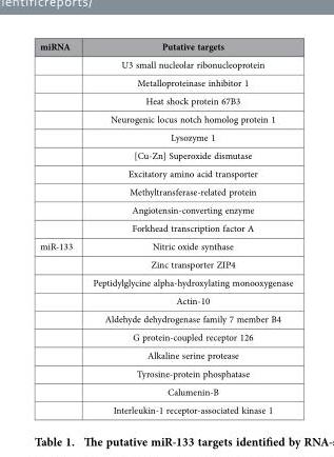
<table><thead><tr><td>miRNA</td><td>Putative targets</td></tr></thead><tbody><tr><td></td><td>U3 small nucleolar ribonucleoprotein</td></tr><tr><td></td><td>Metalloproteinase inhibitor 1</td></tr><tr><td></td><td>Heat shock protein 67B3</td></tr><tr><td></td><td>Neurogenic locus notch homolog protein 1</td></tr><tr><td></td><td>Lysozyme 1</td></tr><tr><td></td><td>[Cu-Zn] Superoxide dismutase</td></tr><tr><td></td><td>Excitatory amino acid transporter</td></tr><tr><td></td><td>Methyltransferase-related protein</td></tr><tr><td></td><td>Angiotensin-converting enzyme</td></tr><tr><td></td><td>Forkhead transcription factor A</td></tr><tr><td rowspan="10">miR-133</td><td>Nitric oxide synthase</td></tr><tr><td>Zinc transporter ZIP4</td></tr><tr><td>Peptidylglycine alpha-hydroxylating monooxygenase</td></tr><tr><td>Actin-10</td></tr><tr><td>Aldehyde dehydrogenase family 7 member B4</td></tr><tr><td>G protein-coupled receptor 126</td></tr><tr><td>Alkaline serine protease</td></tr><tr><td>Tyrosine-protein phosphatase</td></tr><tr><td>Calumenin-B</td></tr><tr><td>Interleukin-1 receptor-associated kinase 1</td></tr></tbody></table>